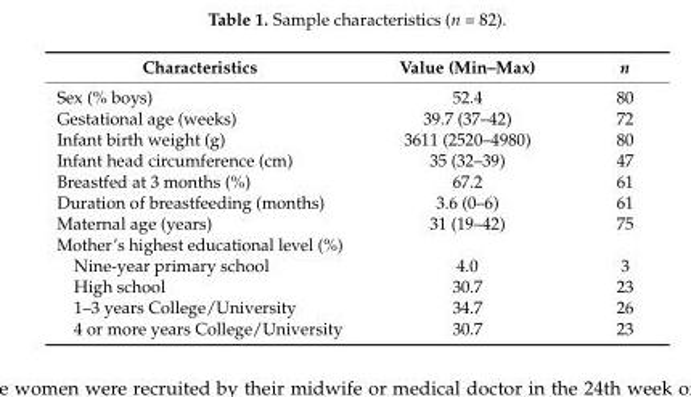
<table><thead><tr><td>Characteristics</td><td>Value (Min–Max)</td><td>n</td></tr></thead><tbody><tr><td>Sex (% boys)</td><td>52.4</td><td>80</td></tr><tr><td>Gestational age (weeks)</td><td>39.7 (37–42)</td><td>72</td></tr><tr><td>Infant birth weight (g)</td><td>3611 (2520–4980)</td><td>80</td></tr><tr><td>Infant head circumference (cm)</td><td>35 (32–39)</td><td>47</td></tr><tr><td>Breastfed at 3 months (%)</td><td>67.2</td><td>61</td></tr><tr><td>Duration of breastfeeding (months)</td><td>3.6 (0–6)</td><td>61</td></tr><tr><td>Maternal age (years)</td><td>31 (19–42)</td><td>75</td></tr><tr><td colspan="3">Mother’s highest educational level (%)</td></tr><tr><td>Nine-year primary school</td><td>4.0</td><td>3</td></tr><tr><td>High school</td><td>30.7</td><td>23</td></tr><tr><td>1–3 years College/University</td><td>34.7</td><td>26</td></tr><tr><td>4 or more years College/University</td><td>30.7</td><td>23</td></tr></tbody></table>